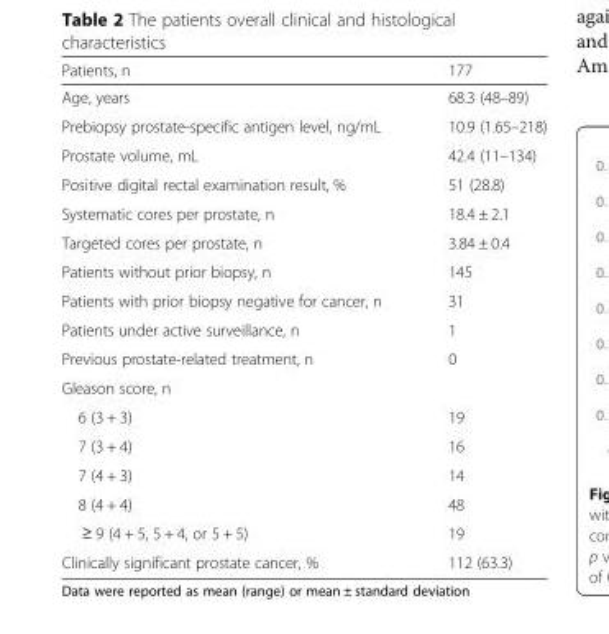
<table><thead><tr><td>Patients, n</td><td>177</td></tr></thead><tbody><tr><td>Age, years</td><td>68.3 (48–89)</td></tr><tr><td>Prebiopsy prostate-specific antigen level, ng/mL</td><td>10.9 (1.65–218)</td></tr><tr><td>Prostate volume, mL</td><td>42.4 (11–134)</td></tr><tr><td>Positive digital rectal examination result, %</td><td>51 (28.8)</td></tr><tr><td>Systematic cores per prostate, n</td><td>18.4 ± 2.1</td></tr><tr><td>Targeted cores per prostate, n</td><td>3.84 ± 0.4</td></tr><tr><td>Patients without prior biopsy, n</td><td>145</td></tr><tr><td>Patients with prior biopsy negative for cancer, n</td><td>31</td></tr><tr><td>Patients under active surveillance, n</td><td>1</td></tr><tr><td>Previous prostate-related treatment, n</td><td>0</td></tr><tr><td colspan="2">Gleason score, n</td></tr><tr><td>6 (3 + 3)</td><td>19</td></tr><tr><td>7 (3 + 4)</td><td>16</td></tr><tr><td>7 (4 + 3)</td><td>14</td></tr><tr><td>8 (4 + 4)</td><td>48</td></tr><tr><td>≥ 9 (4 + 5, 5 + 4, or 5 + 5)</td><td>19</td></tr><tr><td>Clinically significant prostate cancer, %</td><td>112 (63.3)</td></tr></tbody></table>